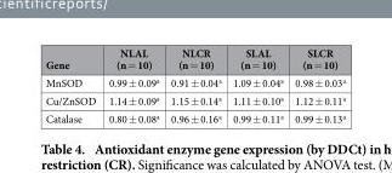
<table><thead><tr><td>Gene</td><td>NLAL (n = 10)</td><td>NLCR (n = 10)</td><td>SLAL (n = 10)</td><td>SLCR (n = 10)</td></tr></thead><tbody><tr><td>MnSOD</td><td>0.99 ± 0.09<sup>a</sup></td><td>0.91 ± 0.04<sup>a</sup></td><td>1.09 ± 0.04<sup>a</sup></td><td>0.98 ± 0.03<sup>a</sup></td></tr><tr><td>Cu/ZnSOD</td><td>1.14 ± 0.09<sup>a</sup></td><td>1.15 ± 0.14<sup>a</sup></td><td>1.11 ± 0.10<sup>a</sup></td><td>1.12 ± 0.11<sup>a</sup></td></tr><tr><td>Catalase</td><td>0.80 ± 0.08<sup>a</sup></td><td>0.96 ± 0.16<sup>a</sup></td><td>0.99 ± 0.11<sup>a</sup></td><td>0.99 ± 0.13<sup>a</sup></td></tr></tbody></table>